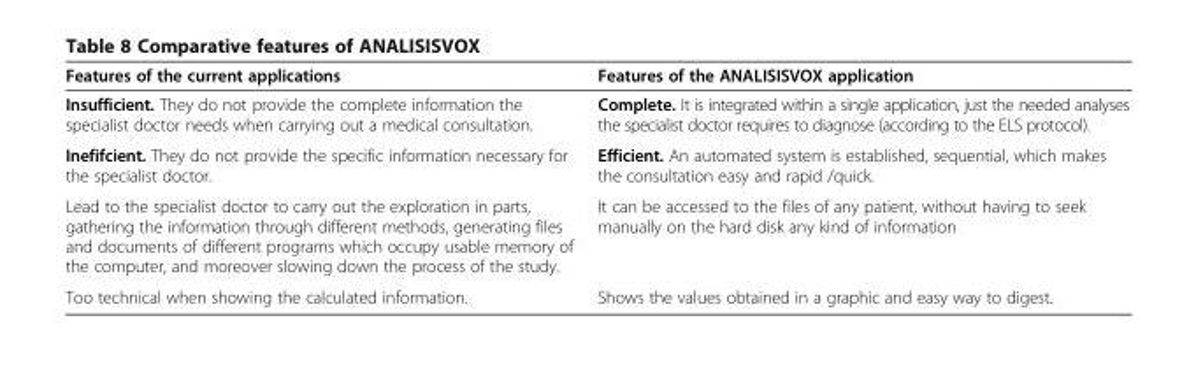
<table><thead><tr><td>Features of the current applications</td><td>Features of the ANALISISVOX application</td></tr></thead><tbody><tr><td>Insufficient. They do not provide the complete information the specialist doctor needs when carrying out a medical consultation.</td><td>Complete. It is integrated within a single application, just the needed analyses the specialist doctor requires to diagnose (according to the ELS protocol).</td></tr><tr><td>Inefifcient. They do not provide the specific information necessary for the specialist doctor.</td><td>Efficient. An automated system is established, sequential, which makes the consultation easy and rapid /quick.</td></tr><tr><td>Lead to the specialist doctor to carry out the exploration in parts, gathering the information through different methods, generating files and documents of different programs which occupy usable memory of the computer, and moreover slowing down the process of the study.</td><td>It can be accessed to the files of any patient, without having to seek manually on the hard disk any kind of information</td></tr><tr><td>Too technical when showing the calculated information.</td><td>Shows the values obtained in a graphic and easy way to digest.</td></tr></tbody></table>